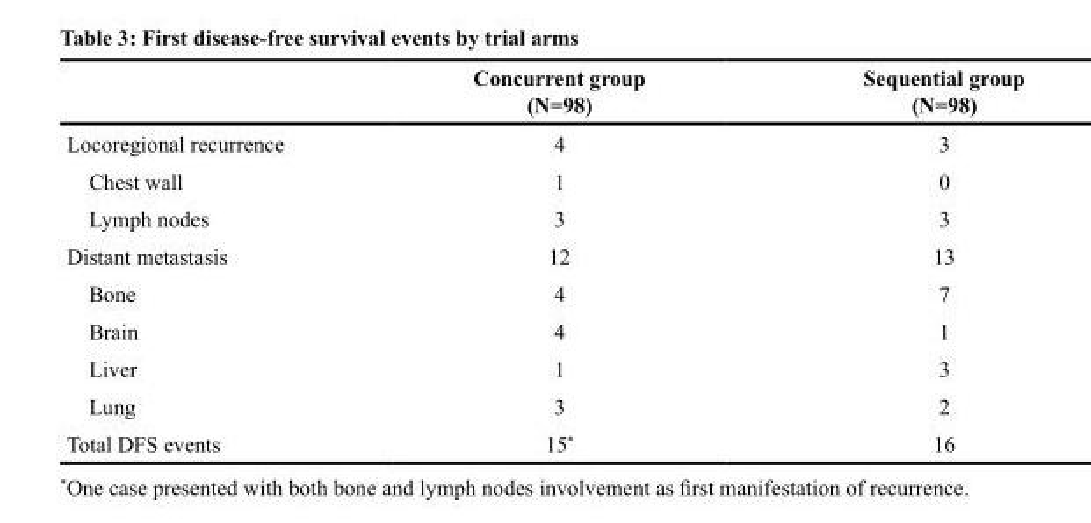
<table><thead><tr><td></td><td>Concurrent group (N=98)</td><td>Sequential group (N=98)</td></tr></thead><tbody><tr><td>Locoregional recurrence</td><td>4</td><td>3</td></tr><tr><td>Chest wall</td><td>1</td><td>0</td></tr><tr><td>Lymph nodes</td><td>3</td><td>3</td></tr><tr><td>Distant metastasis</td><td>12</td><td>13</td></tr><tr><td>Bone</td><td>4</td><td>7</td></tr><tr><td>Brain</td><td>4</td><td>1</td></tr><tr><td>Liver</td><td>1</td><td>3</td></tr><tr><td>Lung</td><td>3</td><td>2</td></tr><tr><td>Total DFS events</td><td>15*</td><td>16</td></tr></tbody></table>